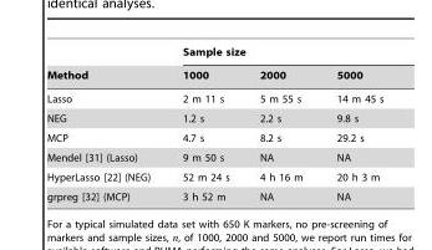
<table><thead><tr><td rowspan="2">Method</td><td colspan="3">Sample size</td></tr><tr><td>1000</td><td>2000</td><td>5000</td></tr></thead><tbody><tr><td>Lasso</td><td>2 m 11 s</td><td>5 m 55 s</td><td>14 m 45 s</td></tr><tr><td>NEG</td><td>1.2 s</td><td>2.2 s</td><td>9.8 s</td></tr><tr><td>MCP</td><td>4.7 s</td><td>8.2 s</td><td>29.2 s</td></tr><tr><td>Mendel [31] (Lasso)</td><td>9 m 50 s</td><td>NA</td><td>NA</td></tr><tr><td>HyperLasso [22] (NEG)</td><td>52 m 24 s</td><td>4 h 16 m</td><td>20 h 3 m</td></tr><tr><td>grpreg [32] (MCP)</td><td>3 h 52 m</td><td>NA</td><td>NA</td></tr></tbody></table>